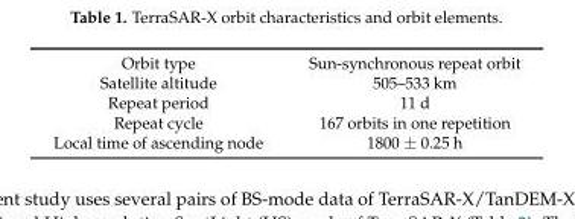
<table><tbody><tr><td>Orbit type</td><td>Sun-synchronous repeat orbit</td></tr><tr><td>Satellite altitude</td><td>505–533 km</td></tr><tr><td>Repeat period</td><td>11 d</td></tr><tr><td>Repeat cycle</td><td>167 orbits in one repetition</td></tr><tr><td>Local time of ascending node</td><td>1800 ± 0.25 h</td></tr></tbody></table>